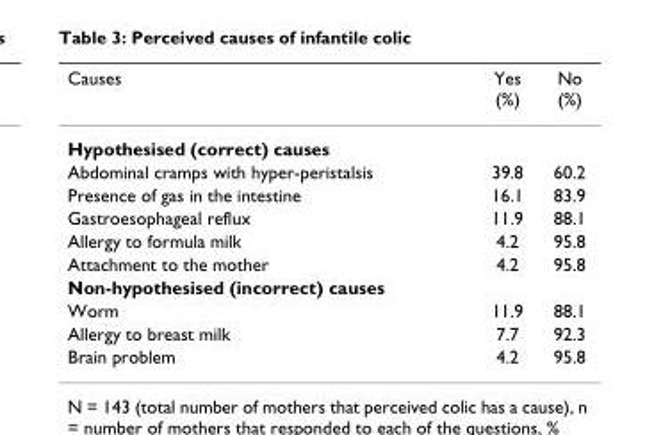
<table><thead><tr><td>Causes</td><td>Yes (%)</td><td>No (%)</td></tr></thead><tbody><tr><td colspan="3">Hypothesised (correct) causes</td></tr><tr><td>Abdominal cramps with hyper-peristalsis</td><td>39.8</td><td>60.2</td></tr><tr><td>Presence of gas in the intestine</td><td>16.1</td><td>83.9</td></tr><tr><td>Gastroesophageal reflux</td><td>11.9</td><td>88.1</td></tr><tr><td>Allergy to formula milk</td><td>4.2</td><td>95.8</td></tr><tr><td>Attachment to the mother</td><td>4.2</td><td>95.8</td></tr><tr><td colspan="3">Non-hypothesised (incorrect) causes</td></tr><tr><td>Worm</td><td>11.9</td><td>88.1</td></tr><tr><td>Allergy to breast milk</td><td>7.7</td><td>92.3</td></tr><tr><td>Brain problem</td><td>4.2</td><td>95.8</td></tr></tbody></table>